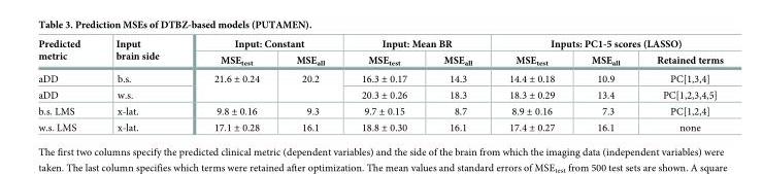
<table><thead><tr><td rowspan="2">Predicted metric</td><td rowspan="2">Input brain side</td><td colspan="2">Input: Constant</td><td colspan="2">Input: Mean BR</td><td colspan="3">Inputs: PC1-5 scores (LASSO)</td></tr><tr><td>MSE<sub>test</sub></td><td>MSE<sub>all</sub></td><td>MSE<sub>test</sub></td><td>MSE<sub>all</sub></td><td>MSE<sub>test</sub></td><td>MSE<sub>all</sub></td><td>Retained terms</td></tr></thead><tbody><tr><td>aDD</td><td>b.s.</td><td rowspan="2">21.6 ± 0.24</td><td rowspan="2">20.2</td><td>16.3 ± 0.17</td><td>14.3</td><td>14.4 ± 0.18</td><td>10.9</td><td>PC[1,3,4]</td></tr><tr><td>aDD</td><td>w.s.</td><td>20.3 ± 0.26</td><td>18.3</td><td>18.3 ± 0.29</td><td>13.4</td><td>PC[1,2,3,4,5]</td></tr><tr><td>b.s. LMS</td><td>x-lat.</td><td>9.8 ± 0.16</td><td>9.3</td><td>9.7 ± 0.15</td><td>8.7</td><td>8.9 ± 0.16</td><td>7.3</td><td>PC[1,2,4]</td></tr><tr><td>w.s. LMS</td><td>x-lat.</td><td>17.1 ± 0.28</td><td>16.1</td><td>18.8 ± 0.30</td><td>16.1</td><td>17.4 ± 0.27</td><td>16.1</td><td>none</td></tr></tbody></table>